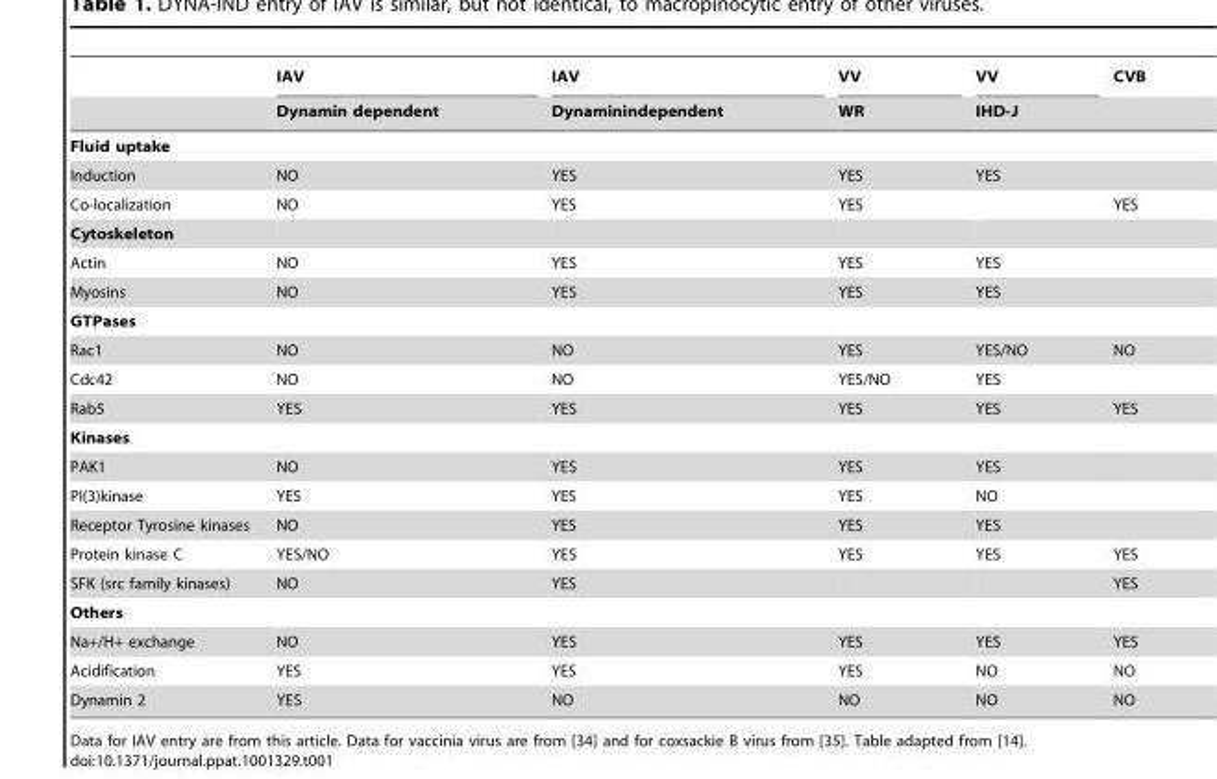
<table><thead><tr><td rowspan="2"></td><td rowspan="2">IAV Dynamin dependent</td><td rowspan="2">IAV Dynaminindependent</td><td rowspan="2">VV WR</td><td rowspan="2">VV IHD-J</td><td rowspan="2">CVB</td></tr><tr></tr></thead><tbody><tr><td colspan="6">Fluid uptake</td></tr><tr><td>Induction</td><td>NO</td><td>YES</td><td>YES</td><td>YES</td><td></td></tr><tr><td>Co-localization</td><td>NO</td><td>YES</td><td>YES</td><td></td><td>YES</td></tr><tr><td colspan="6">Cytoskeleton</td></tr><tr><td>Actin</td><td>NO</td><td>YES</td><td>YES</td><td>YES</td><td></td></tr><tr><td>Myosins</td><td>NO</td><td>YES</td><td>YES</td><td>YES</td><td></td></tr><tr><td colspan="6">GTPases</td></tr><tr><td>Rac1</td><td>NO</td><td>NO</td><td>YES</td><td>YES/NO</td><td>NO</td></tr><tr><td>Cdc42</td><td>NO</td><td>NO</td><td>YES/NO</td><td>YES</td><td></td></tr><tr><td>Rab5</td><td>YES</td><td>YES</td><td>YES</td><td>YES</td><td>YES</td></tr><tr><td colspan="6">Kinases</td></tr><tr><td>PAK1</td><td>NO</td><td>YES</td><td>YES</td><td>YES</td><td></td></tr><tr><td>PI(3)kinase</td><td>YES</td><td>YES</td><td>YES</td><td>NO</td><td></td></tr><tr><td>Receptor Tyrosine kinases</td><td>NO</td><td>YES</td><td>YES</td><td>YES</td><td></td></tr><tr><td>Protein kinase C</td><td>YES/NO</td><td>YES</td><td>YES</td><td>YES</td><td>YES</td></tr><tr><td>SFK (src family kinases)</td><td>NO</td><td>YES</td><td></td><td></td><td>YES</td></tr><tr><td colspan="6">Others</td></tr><tr><td>Na+/H+ exchange</td><td>NO</td><td>YES</td><td>YES</td><td>YES</td><td>YES</td></tr><tr><td>Acidification</td><td>YES</td><td>YES</td><td>YES</td><td>NO</td><td>NO</td></tr><tr><td>Dynamin 2</td><td>YES</td><td>NO</td><td>NO</td><td>NO</td><td>NO</td></tr></tbody></table>